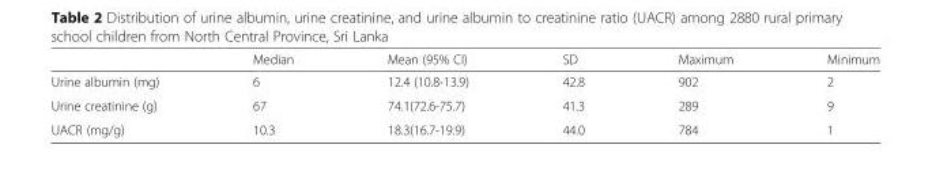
<table><thead><tr><td></td><td>Median</td><td>Mean (95% CI)</td><td>SD</td><td>Maximum</td><td>Minimum</td></tr></thead><tbody><tr><td>Urine albumin (mg)</td><td>6</td><td>12.4 (10.8-13.9)</td><td>42.8</td><td>902</td><td>2</td></tr><tr><td>Urine creatinine (g)</td><td>67</td><td>74.1(72.6-75.7)</td><td>41.3</td><td>289</td><td>9</td></tr><tr><td>UACR (mg/g)</td><td>10.3</td><td>18.3(16.7-19.9)</td><td>44.0</td><td>784</td><td>1</td></tr></tbody></table>